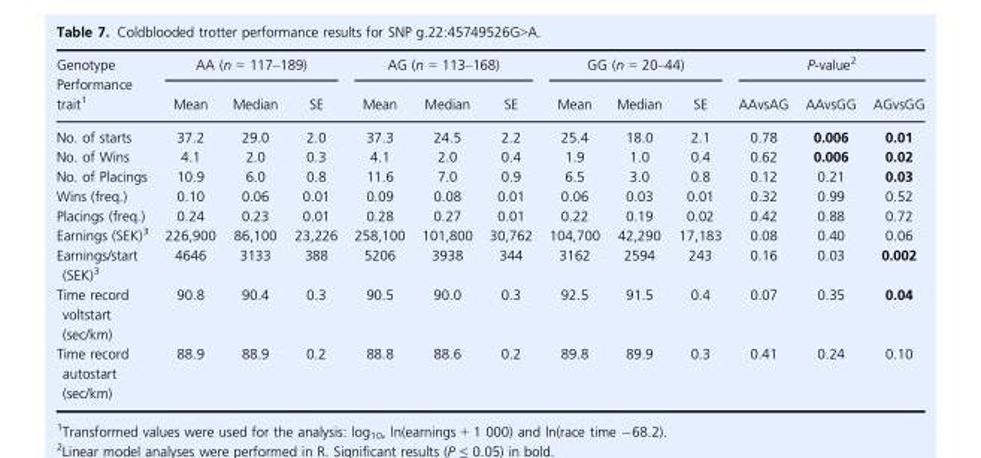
<table><thead><tr><td rowspan="2">Genotype Performance trait1</td><td colspan="3">AA (n = 117–189)</td><td colspan="3">AG (n = 113–168)</td><td colspan="3">GG (n = 20–44)</td><td colspan="3">P-value2</td></tr><tr><td>Mean</td><td>Median</td><td>SE</td><td>Mean</td><td>Median</td><td>SE</td><td>Mean</td><td>Median</td><td>SE</td><td>AAvsAG</td><td>AAvsGG</td><td>AGvsGG</td></tr></thead><tbody><tr><td>No. of starts</td><td>37.2</td><td>29.0</td><td>2.0</td><td>37.3</td><td>24.5</td><td>2.2</td><td>25.4</td><td>18.0</td><td>2.1</td><td>0.78</td><td>0.006</td><td>0.01</td></tr><tr><td>No. of Wins</td><td>4.1</td><td>2.0</td><td>0.3</td><td>4.1</td><td>2.0</td><td>0.4</td><td>1.9</td><td>1.0</td><td>0.4</td><td>0.62</td><td>0.006</td><td>0.02</td></tr><tr><td>No. of Placings</td><td>10.9</td><td>6.0</td><td>0.8</td><td>11.6</td><td>7.0</td><td>0.9</td><td>6.5</td><td>3.0</td><td>0.8</td><td>0.12</td><td>0.21</td><td>0.03</td></tr><tr><td>Wins (freq.)</td><td>0.10</td><td>0.06</td><td>0.01</td><td>0.09</td><td>0.08</td><td>0.01</td><td>0.06</td><td>0.03</td><td>0.01</td><td>0.32</td><td>0.99</td><td>0.52</td></tr><tr><td>Placings (freq.)</td><td>0.24</td><td>0.23</td><td>0.01</td><td>0.28</td><td>0.27</td><td>0.01</td><td>0.22</td><td>0.19</td><td>0.02</td><td>0.42</td><td>0.88</td><td>0.72</td></tr><tr><td>Earnings (SEK)3</td><td>226,900</td><td>86,100</td><td>23,226</td><td>258,100</td><td>101,800</td><td>30,762</td><td>104,700</td><td>42,290</td><td>17,183</td><td>0.08</td><td>0.40</td><td>0.06</td></tr><tr><td>Earnings/start (SEK)3</td><td>4646</td><td>3133</td><td>388</td><td>5206</td><td>3938</td><td>344</td><td>3162</td><td>2594</td><td>243</td><td>0.16</td><td>0.03</td><td>0.002</td></tr><tr><td>Time record voltstart (sec/km)</td><td>90.8</td><td>90.4</td><td>0.3</td><td>90.5</td><td>90.0</td><td>0.3</td><td>92.5</td><td>91.5</td><td>0.4</td><td>0.07</td><td>0.35</td><td>0.04</td></tr><tr><td>Time record autostart (sec/km)</td><td>88.9</td><td>88.9</td><td>0.2</td><td>88.8</td><td>88.6</td><td>0.2</td><td>89.8</td><td>89.9</td><td>0.3</td><td>0.41</td><td>0.24</td><td>0.10</td></tr></tbody></table>